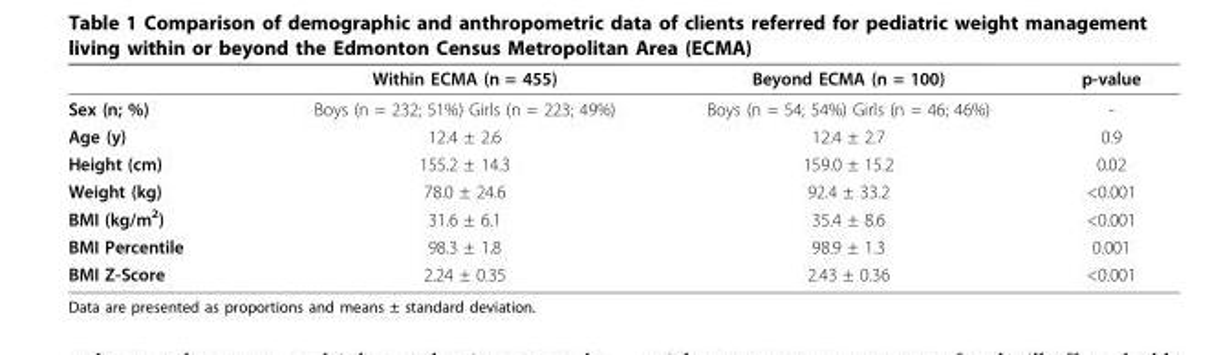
<table><thead><tr><td></td><td>Within ECMA (n = 455)</td><td>Beyond ECMA (n = 100)</td><td>p-value</td></tr></thead><tbody><tr><td>Sex (n; %)</td><td>Boys (n = 232; 51%) Girls (n = 223; 49%)</td><td>Boys (n = 54; 54%) Girls (n = 46; 46%)</td><td>-</td></tr><tr><td>Age (y)</td><td>12.4 ± 2.6</td><td>12.4 ± 2.7</td><td>0.9</td></tr><tr><td>Height (cm)</td><td>155.2 ± 14.3</td><td>159.0 ± 15.2</td><td>0.02</td></tr><tr><td>Weight (kg)</td><td>78.0 ± 24.6</td><td>92.4 ± 33.2</td><td>&lt;0.001</td></tr><tr><td>BMI (kg/m<sup>2</sup>)</td><td>31.6 ± 6.1</td><td>35.4 ± 8.6</td><td>&lt;0.001</td></tr><tr><td>BMI Percentile</td><td>98.3 ± 1.8</td><td>98.9 ± 1.3</td><td>0.001</td></tr><tr><td>BMI Z-Score</td><td>2.24 ± 0.35</td><td>2.43 ± 0.36</td><td>&lt;0.001</td></tr></tbody></table>